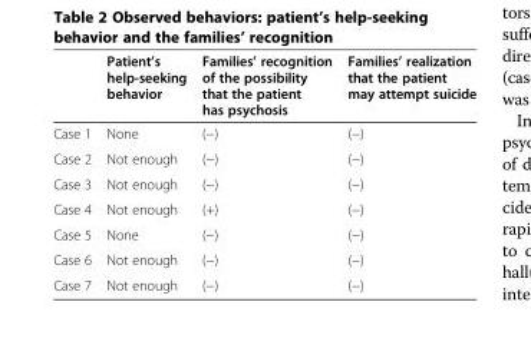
<table><thead><tr><td></td><td>Patient’s help-seeking behavior</td><td>Families’ recognition of the possibility that the patient has psychosis</td><td>Families’ realization that the patient may attempt suicide</td></tr></thead><tbody><tr><td>Case 1</td><td>None</td><td>(−)</td><td>(−)</td></tr><tr><td>Case 2</td><td>Not enough</td><td>(−)</td><td>(−)</td></tr><tr><td>Case 3</td><td>Not enough</td><td>(−)</td><td>(−)</td></tr><tr><td>Case 4</td><td>Not enough</td><td>(+)</td><td>(−)</td></tr><tr><td>Case 5</td><td>None</td><td>(−)</td><td>(−)</td></tr><tr><td>Case 6</td><td>Not enough</td><td>(−)</td><td>(−)</td></tr><tr><td>Case 7</td><td>Not enough</td><td>(−)</td><td>(−)</td></tr></tbody></table>